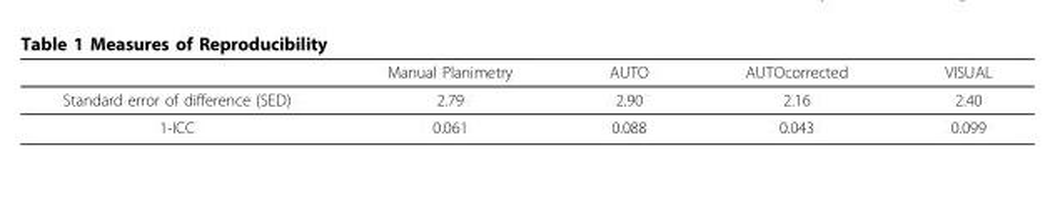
<table><thead><tr><td></td><td>Manual Planimetry</td><td>AUTO</td><td>AUTOcorrected</td><td>VISUAL</td></tr></thead><tbody><tr><td>Standard error of difference (SED)</td><td>2.79</td><td>2.90</td><td>2.16</td><td>2.40</td></tr><tr><td>1-ICC</td><td>0.061</td><td>0.088</td><td>0.043</td><td>0.099</td></tr></tbody></table>